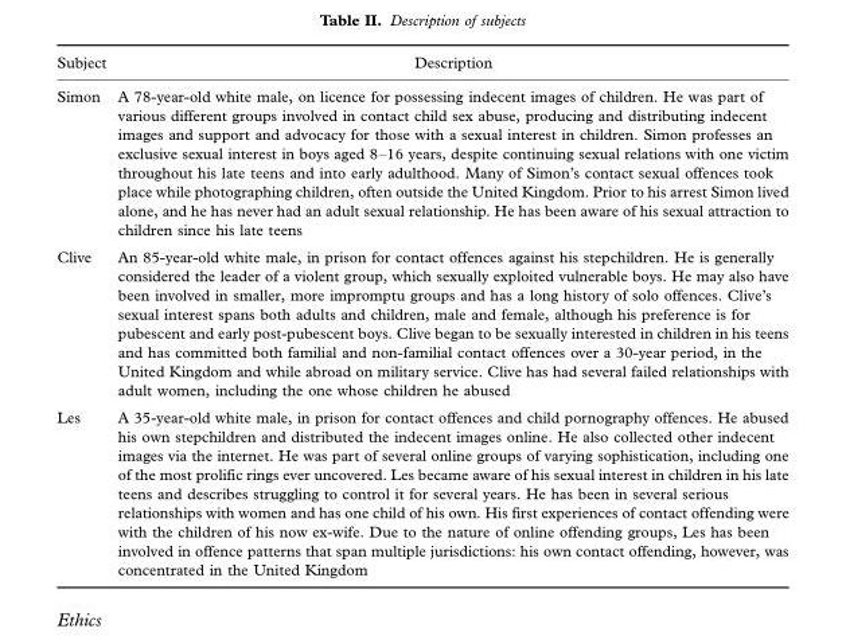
<table><thead><tr><td>Subject</td><td>Description</td></tr></thead><tbody><tr><td>Simon</td><td>A 78-year-old white male, on licence for possessing indecent images of children. He was part of various different groups involved in contact child sex abuse, producing and distributing indecent images and support and advocacy for those with a sexual interest in children. Simon professes an exclusive sexual interest in boys aged 8–16 years, despite continuing sexual relations with one victim throughout his late teens and into early adulthood. Many of Simon’s contact sexual offences took place while photographing children, often outside the United Kingdom. Prior to his arrest Simon lived alone, and he has never had an adult sexual relationship. He has been aware of his sexual attraction to children since his late teens</td></tr><tr><td>Clive</td><td>An 85-year-old white male, in prison for contact offences against his stepchildren. He is generally considered the leader of a violent group, which sexually exploited vulnerable boys. He may also have been involved in smaller, more impromptu groups and has a long history of solo offences. Clive’s sexual interest spans both adults and children, male and female, although his preference is for pubescent and early post-pubescent boys. Clive began to be sexually interested in children in his teens and has committed both familial and non-familial contact offences over a 30-year period, in the United Kingdom and while abroad on military service. Clive has had several failed relationships with adult women, including the one whose children he abused</td></tr><tr><td>Les</td><td>A 35-year-old white male, in prison for contact offences and child pornography offences. He abused his own stepchildren and distributed the indecent images online. He also collected other indecent images via the internet. He was part of several online groups of varying sophistication, including one of the most prolific rings ever uncovered. Les became aware of his sexual interest in children in his late teens and describes struggling to control it for several years. He has been in several serious relationships with women and has one child of his own. His first experiences of contact offending were with the children of his now ex-wife. Due to the nature of online offending groups, Les has been involved in offence patterns that span multiple jurisdictions: his own contact offending, however, was concentrated in the United Kingdom</td></tr></tbody></table>